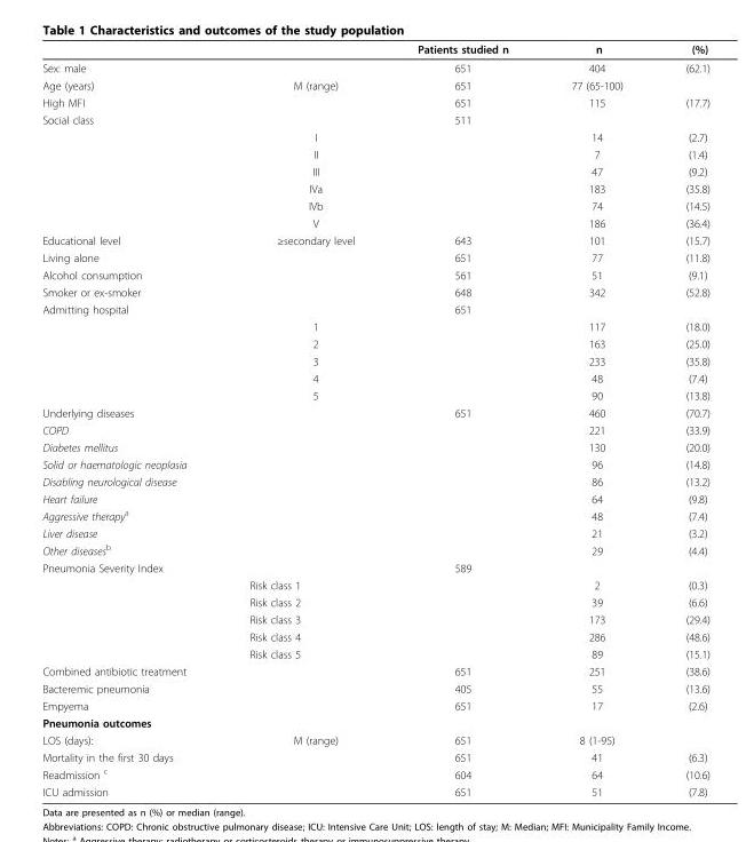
<table><thead><tr><td></td><td></td><td>Patients studied n</td><td>n</td><td>(%)</td></tr></thead><tbody><tr><td>Sex: male</td><td></td><td>651</td><td>404</td><td>(62.1)</td></tr><tr><td>Age (years)</td><td>M (range)</td><td>651</td><td>77 (65-100)</td><td></td></tr><tr><td>High MFI</td><td></td><td>651</td><td>115</td><td>(17.7)</td></tr><tr><td rowspan="7">Social class</td><td></td><td>511</td><td></td><td></td></tr><tr><td>I</td><td></td><td>14</td><td>(2.7)</td></tr><tr><td>II</td><td></td><td>7</td><td>(1.4)</td></tr><tr><td>III</td><td></td><td>47</td><td>(9.2)</td></tr><tr><td>IVa</td><td></td><td>183</td><td>(35.8)</td></tr><tr><td>IVb</td><td></td><td>74</td><td>(14.5)</td></tr><tr><td>V</td><td></td><td>186</td><td>(36.4)</td></tr><tr><td>Educational level</td><td>≥secondary level</td><td>643</td><td>101</td><td>(15.7)</td></tr><tr><td>Living alone</td><td></td><td>651</td><td>77</td><td>(11.8)</td></tr><tr><td>Alcohol consumption</td><td></td><td>561</td><td>51</td><td>(9.1)</td></tr><tr><td>Smoker or ex-smoker</td><td></td><td>648</td><td>342</td><td>(52.8)</td></tr><tr><td rowspan="6">Admitting hospital</td><td></td><td>651</td><td></td><td></td></tr><tr><td>1</td><td></td><td>117</td><td>(18.0)</td></tr><tr><td>2</td><td></td><td>163</td><td>(25.0)</td></tr><tr><td>3</td><td></td><td>233</td><td>(35.8)</td></tr><tr><td>4</td><td></td><td>48</td><td>(7.4)</td></tr><tr><td>5</td><td></td><td>90</td><td>(13.8)</td></tr><tr><td>Underlying diseases</td><td></td><td>651</td><td>460</td><td>(70.7)</td></tr><tr><td>COPD</td><td></td><td></td><td>221</td><td>(33.9)</td></tr><tr><td>Diabetes mellitus</td><td></td><td></td><td>130</td><td>(20.0)</td></tr><tr><td>Solid or haematologic neoplasia</td><td></td><td></td><td>96</td><td>(14.8)</td></tr><tr><td>Disabling neurological disease</td><td></td><td></td><td>86</td><td>(13.2)</td></tr><tr><td>Heart failure</td><td></td><td></td><td>64</td><td>(9.8)</td></tr><tr><td>Aggressive therapy<sup>a</sup></td><td></td><td></td><td>48</td><td>(7.4)</td></tr><tr><td>Liver disease</td><td></td><td></td><td>21</td><td>(3.2)</td></tr><tr><td>Other diseases<sup>b</sup></td><td></td><td></td><td>29</td><td>(4.4)</td></tr><tr><td rowspan="6">Pneumonia Severity Index</td><td></td><td>589</td><td></td><td></td></tr><tr><td>Risk class 1</td><td></td><td>2</td><td>(0.3)</td></tr><tr><td>Risk class 2</td><td></td><td>39</td><td>(6.6)</td></tr><tr><td>Risk class 3</td><td></td><td>173</td><td>(29.4)</td></tr><tr><td>Risk class 4</td><td></td><td>286</td><td>(48.6)</td></tr><tr><td>Risk class 5</td><td></td><td>89</td><td>(15.1)</td></tr><tr><td>Combined antibiotic treatment</td><td></td><td>651</td><td>251</td><td>(38.6)</td></tr><tr><td>Bacteremic pneumonia</td><td></td><td>405</td><td>55</td><td>(13.6)</td></tr><tr><td>Empyema</td><td></td><td>651</td><td>17</td><td>(2.6)</td></tr><tr><td colspan="5">Pneumonia outcomes</td></tr><tr><td>LOS (days):</td><td>M (range)</td><td>651</td><td>8 (1-95)</td><td></td></tr><tr><td>Mortality in the first 30 days</td><td></td><td>651</td><td>41</td><td>(6.3)</td></tr><tr><td>Readmission <sup>c</sup></td><td></td><td>604</td><td>64</td><td>(10.6)</td></tr><tr><td>ICU admission</td><td></td><td>651</td><td>51</td><td>(7.8)</td></tr></tbody></table>